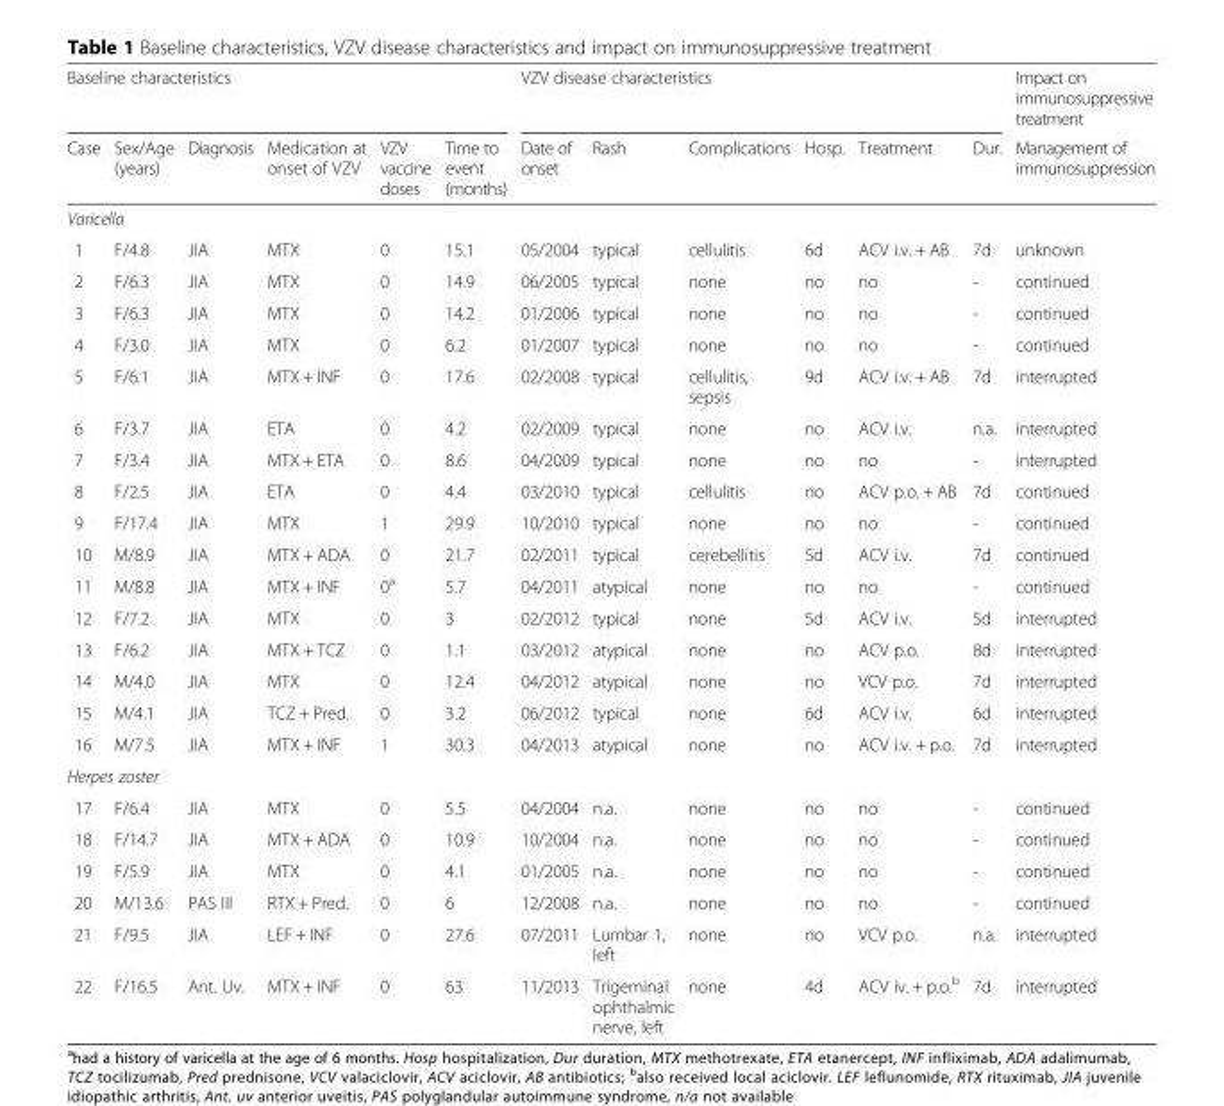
<table><thead><tr><td colspan="6">Baseline characteristics</td><td colspan="6">VZV disease characteristics</td><td rowspan="2">Impact on immunosuppressive treatment Management of immunosuppression</td></tr><tr><td>Case</td><td>Sex/Age (years)</td><td>Diagnosis</td><td>Medication at onset of VZV</td><td>VZV vaccine doses</td><td>Time to event (months)</td><td>Date of onset</td><td>Rash</td><td>Complications</td><td>Hosp.</td><td>Treatment</td><td>Dur.</td></tr></thead><tbody><tr><td colspan="13">Varicella</td></tr><tr><td>1</td><td>F/4.8</td><td>JIA</td><td>MTX</td><td>0</td><td>15.1</td><td>05/2004</td><td>typical</td><td>cellulitis</td><td>6d</td><td>ACV i.v. + AB</td><td>7d</td><td>unknown</td></tr><tr><td>2</td><td>F/6.3</td><td>JIA</td><td>MTX</td><td>0</td><td>14.9</td><td>06/2005</td><td>typical</td><td>none</td><td>no</td><td>no</td><td>-</td><td>continued</td></tr><tr><td>3</td><td>F/6.3</td><td>JIA</td><td>MTX</td><td>0</td><td>14.2</td><td>01/2006</td><td>typical</td><td>none</td><td>no</td><td>no</td><td>-</td><td>continued</td></tr><tr><td>4</td><td>F/3.0</td><td>JIA</td><td>MTX</td><td>0</td><td>6.2</td><td>01/2007</td><td>typical</td><td>none</td><td>no</td><td>no</td><td>-</td><td>continued</td></tr><tr><td>5</td><td>F/6.1</td><td>JIA</td><td>MTX + INF</td><td>0</td><td>17.6</td><td>02/2008</td><td>typical</td><td>cellulitis, sepsis</td><td>9d</td><td>ACV i.v. + AB</td><td>7d</td><td>interrupted</td></tr><tr><td>6</td><td>F/3.7</td><td>JIA</td><td>ETA</td><td>0</td><td>4.2</td><td>02/2009</td><td>typical</td><td>none</td><td>no</td><td>ACV i.v.</td><td>n.a.</td><td>interrupted</td></tr><tr><td>7</td><td>F/3.4</td><td>JIA</td><td>MTX + ETA</td><td>0</td><td>8.6</td><td>04/2009</td><td>typical</td><td>none</td><td>no</td><td>no</td><td>-</td><td>interrupted</td></tr><tr><td>8</td><td>F/2.5</td><td>JIA</td><td>ETA</td><td>0</td><td>4.4</td><td>03/2010</td><td>typical</td><td>cellulitis</td><td>no</td><td>ACV p.o. + AB</td><td>7d</td><td>continued</td></tr><tr><td>9</td><td>F/17.4</td><td>JIA</td><td>MTX</td><td>1</td><td>29.9</td><td>10/2010</td><td>typical</td><td>none</td><td>no</td><td>no</td><td>-</td><td>continued</td></tr><tr><td>10</td><td>M/8.9</td><td>JIA</td><td>MTX + ADA</td><td>0</td><td>21.7</td><td>02/2011</td><td>typical</td><td>cerebellitis</td><td>5d</td><td>ACV i.v.</td><td>7d</td><td>continued</td></tr><tr><td>11</td><td>M/8.8</td><td>JIA</td><td>MTX + INF</td><td>0<sup>a</sup></td><td>5.7</td><td>04/2011</td><td>atypical</td><td>none</td><td>no</td><td>no</td><td>-</td><td>continued</td></tr><tr><td>12</td><td>F/7.2</td><td>JIA</td><td>MTX</td><td>0</td><td>3</td><td>02/2012</td><td>typical</td><td>none</td><td>5d</td><td>ACV i.v.</td><td>5d</td><td>interrupted</td></tr><tr><td>13</td><td>F/6.2</td><td>JIA</td><td>MTX + TCZ</td><td>0</td><td>1.1</td><td>03/2012</td><td>atypical</td><td>none</td><td>no</td><td>ACV p.o.</td><td>8d</td><td>interrupted</td></tr><tr><td>14</td><td>M/4.0</td><td>JIA</td><td>MTX</td><td>0</td><td>12.4</td><td>04/2012</td><td>atypical</td><td>none</td><td>no</td><td>VCV p.o.</td><td>7d</td><td>interrupted</td></tr><tr><td>15</td><td>M/4.1</td><td>JIA</td><td>TCZ + Pred.</td><td>0</td><td>3.2</td><td>06/2012</td><td>typical</td><td>none</td><td>6d</td><td>ACV i.v.</td><td>6d</td><td>interrupted</td></tr><tr><td>16</td><td>M/7.5</td><td>JIA</td><td>MTX + INF</td><td>1</td><td>30.3</td><td>04/2013</td><td>atypical</td><td>none</td><td>no</td><td>ACV i.v. + p.o.</td><td>7d</td><td>interrupted</td></tr><tr><td colspan="13">Herpes zoster</td></tr><tr><td>17</td><td>F/6.4</td><td>JIA</td><td>MTX</td><td>0</td><td>5.5</td><td>04/2004</td><td>n.a.</td><td>none</td><td>no</td><td>no</td><td>-</td><td>continued</td></tr><tr><td>18</td><td>F/14.7</td><td>JIA</td><td>MTX + ADA</td><td>0</td><td>10.9</td><td>10/2004</td><td>n.a.</td><td>none</td><td>no</td><td>no</td><td>-</td><td>continued</td></tr><tr><td>19</td><td>F/5.9</td><td>JIA</td><td>MTX</td><td>0</td><td>4.1</td><td>01/2005</td><td>n.a.</td><td>none</td><td>no</td><td>no</td><td>-</td><td>continued</td></tr><tr><td>20</td><td>M/13.6</td><td>PAS III</td><td>RTX + Pred.</td><td>0</td><td>6</td><td>12/2008</td><td>n.a.</td><td>none</td><td>no</td><td>no</td><td>-</td><td>continued</td></tr><tr><td>21</td><td>F/9.5</td><td>JIA</td><td>LEF + INF</td><td>0</td><td>27.6</td><td>07/2011</td><td>Lumbar 1, left</td><td>none</td><td>no</td><td>VCV p.o.</td><td>n.a.</td><td>interrupted</td></tr><tr><td>22</td><td>F/16.5</td><td>Ant. Uv.</td><td>MTX + INF</td><td>0</td><td>63</td><td>11/2013</td><td>Trigeminal ophthalmic nerve, left</td><td>none</td><td>4d</td><td>ACV iv. + p.o.<sup>b</sup></td><td>7d</td><td>interrupted</td></tr></tbody></table>